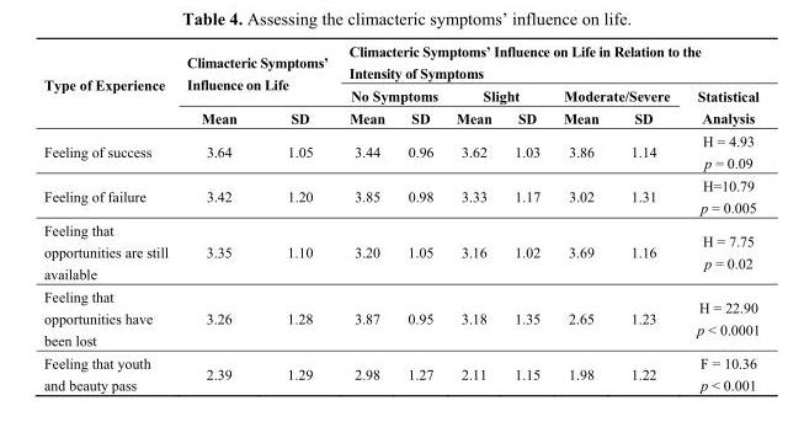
<table><thead><tr><td rowspan="3">Type of Experience</td><td rowspan="2" colspan="2">Climacteric Symptoms’ Influence on Life</td><td colspan="7">Climacteric Symptoms’ Influence on Life in Relation to the Intensity of Symptoms</td></tr><tr><td colspan="2">No Symptoms</td><td colspan="2">Slight</td><td colspan="2">Moderate/Severe</td><td rowspan="2">Statistical Analysis</td></tr><tr><td>Mean</td><td>SD</td><td>Mean</td><td>SD</td><td>Mean</td><td>SD</td><td>Mean</td><td>SD</td></tr></thead><tbody><tr><td rowspan="2">Feeling of success</td><td rowspan="2">3.64</td><td rowspan="2">1.05</td><td rowspan="2">3.44</td><td rowspan="2">0.96</td><td rowspan="2">3.62</td><td rowspan="2">1.03</td><td rowspan="2">3.86</td><td rowspan="2">1.14</td><td>H = 4.93</td></tr><tr><td>p = 0.09</td></tr><tr><td rowspan="2">Feeling of failure</td><td rowspan="2">3.42</td><td rowspan="2">1.20</td><td rowspan="2">3.85</td><td rowspan="2">0.98</td><td rowspan="2">3.33</td><td rowspan="2">1.17</td><td rowspan="2">3.02</td><td rowspan="2">1.31</td><td>H=10.79</td></tr><tr><td>p = 0.005</td></tr><tr><td rowspan="2">Feeling that opportunities are still available</td><td rowspan="2">3.35</td><td rowspan="2">1.10</td><td rowspan="2">3.20</td><td rowspan="2">1.05</td><td rowspan="2">3.16</td><td rowspan="2">1.02</td><td rowspan="2">3.69</td><td rowspan="2">1.16</td><td>H = 7.75</td></tr><tr><td>p = 0.02</td></tr><tr><td rowspan="2">Feeling that opportunities have been lost</td><td rowspan="2">3.26</td><td rowspan="2">1.28</td><td rowspan="2">3.87</td><td rowspan="2">0.95</td><td rowspan="2">3.18</td><td rowspan="2">1.35</td><td rowspan="2">2.65</td><td rowspan="2">1.23</td><td>H = 22.90</td></tr><tr><td>p &lt; 0.0001</td></tr><tr><td rowspan="2">Feeling that youth and beauty pass</td><td rowspan="2">2.39</td><td rowspan="2">1.29</td><td rowspan="2">2.98</td><td rowspan="2">1.27</td><td rowspan="2">2.11</td><td rowspan="2">1.15</td><td rowspan="2">1.98</td><td rowspan="2">1.22</td><td>F = 10.36</td></tr><tr><td>p &lt; 0.001</td></tr></tbody></table>